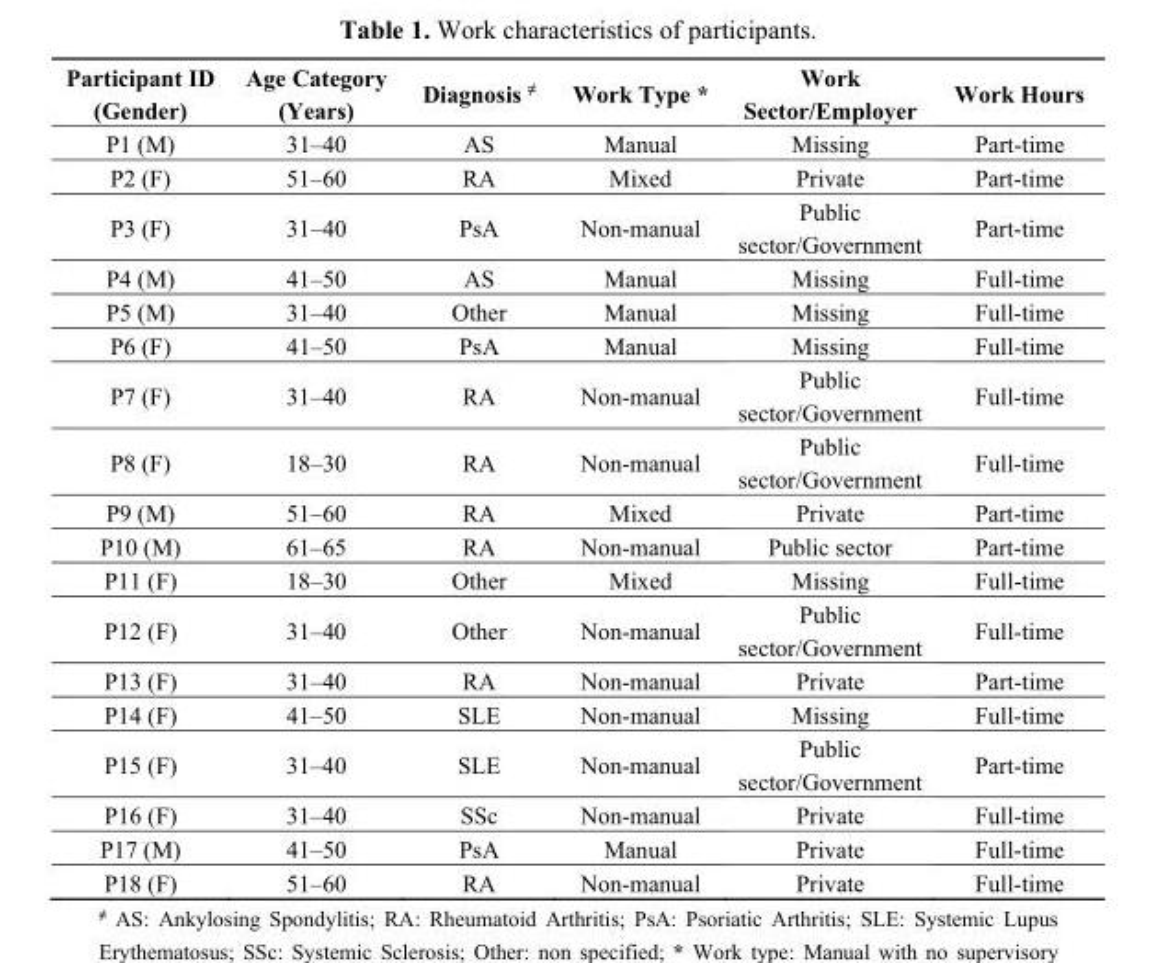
<table><thead><tr><td>Participant ID (Gender)</td><td>Age Category (Years)</td><td>Diagnosis <sup>≠</sup></td><td>Work Type *</td><td>Work Sector/Employer</td><td>Work Hours</td></tr></thead><tbody><tr><td>P1 (M)</td><td>31–40</td><td>AS</td><td>Manual</td><td>Missing</td><td>Part-time</td></tr><tr><td>P2 (F)</td><td>51–60</td><td>RA</td><td>Mixed</td><td>Private</td><td>Part-time</td></tr><tr><td>P3 (F)</td><td>31–40</td><td>PsA</td><td>Non-manual</td><td>Public sector/Government</td><td>Part-time</td></tr><tr><td>P4 (M)</td><td>41–50</td><td>AS</td><td>Manual</td><td>Missing</td><td>Full-time</td></tr><tr><td>P5 (M)</td><td>31–40</td><td>Other</td><td>Manual</td><td>Missing</td><td>Full-time</td></tr><tr><td>P6 (F)</td><td>41–50</td><td>PsA</td><td>Manual</td><td>Missing</td><td>Full-time</td></tr><tr><td>P7 (F)</td><td>31–40</td><td>RA</td><td>Non-manual</td><td>Public sector/Government</td><td>Full-time</td></tr><tr><td>P8 (F)</td><td>18–30</td><td>RA</td><td>Non-manual</td><td>Public sector/Government</td><td>Full-time</td></tr><tr><td>P9 (M)</td><td>51–60</td><td>RA</td><td>Mixed</td><td>Private</td><td>Part-time</td></tr><tr><td>P10 (M)</td><td>61–65</td><td>RA</td><td>Non-manual</td><td>Public sector</td><td>Part-time</td></tr><tr><td>P11 (F)</td><td>18–30</td><td>Other</td><td>Mixed</td><td>Missing</td><td>Full-time</td></tr><tr><td>P12 (F)</td><td>31–40</td><td>Other</td><td>Non-manual</td><td>Public sector/Government</td><td>Full-time</td></tr><tr><td>P13 (F)</td><td>31–40</td><td>RA</td><td>Non-manual</td><td>Private</td><td>Part-time</td></tr><tr><td>P14 (F)</td><td>41–50</td><td>SLE</td><td>Non-manual</td><td>Missing</td><td>Full-time</td></tr><tr><td>P15 (F)</td><td>31–40</td><td>SLE</td><td>Non-manual</td><td>Public sector/Government</td><td>Part-time</td></tr><tr><td>P16 (F)</td><td>31–40</td><td>SSc</td><td>Non-manual</td><td>Private</td><td>Full-time</td></tr><tr><td>P17 (M)</td><td>41–50</td><td>PsA</td><td>Manual</td><td>Private</td><td>Full-time</td></tr><tr><td>P18 (F)</td><td>51–60</td><td>RA</td><td>Non-manual</td><td>Private</td><td>Full-time</td></tr></tbody></table>